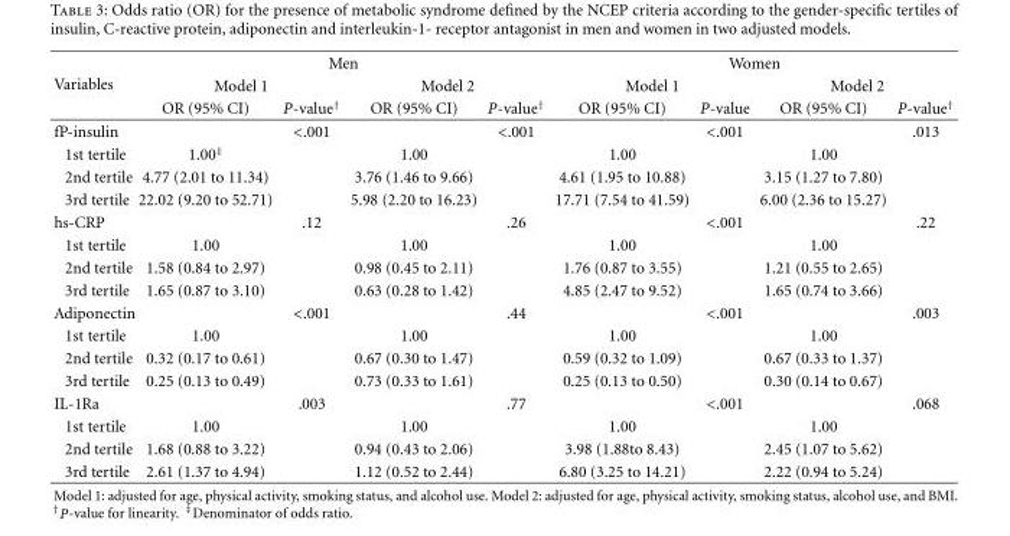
<table><thead><tr><td rowspan="3">Variables</td><td colspan="4">Men</td><td colspan="4">Women</td></tr><tr><td colspan="2">Model 1</td><td colspan="2">Model 2</td><td colspan="2">Model 1</td><td colspan="2">Model 2</td></tr><tr><td>OR (95% CI)</td><td>P-value<sup>†</sup></td><td>OR (95% CI)</td><td>P-value<sup>†</sup></td><td>OR (95% CI)</td><td>P-value</td><td>OR (95% CI)</td><td>P-value<sup>†</sup></td></tr></thead><tbody><tr><td>fP-insulin</td><td></td><td>&lt;.001</td><td></td><td>&lt;.001</td><td></td><td>&lt;.001</td><td></td><td>.013</td></tr><tr><td>1st tertile</td><td>1.00<sup>‡</sup></td><td></td><td>1.00</td><td></td><td>1.00</td><td></td><td>1.00</td><td></td></tr><tr><td>2nd tertile</td><td>4.77 (2.01 to 11.34)</td><td></td><td>3.76 (1.46 to 9.66)</td><td></td><td>4.61 (1.95 to 10.88)</td><td></td><td>3.15 (1.27 to 7.80)</td><td></td></tr><tr><td>3rd tertile</td><td>22.02 (9.20 to 52.71)</td><td></td><td>5.98 (2.20 to 16.23)</td><td></td><td>17.71 (7.54 to 41.59)</td><td></td><td>6.00 (2.36 to 15.27)</td><td></td></tr><tr><td>hs-CRP</td><td></td><td>.12</td><td></td><td>.26</td><td></td><td>&lt;.001</td><td></td><td>.22</td></tr><tr><td>1st tertile</td><td>1.00</td><td></td><td>1.00</td><td></td><td>1.00</td><td></td><td>1.00</td><td></td></tr><tr><td>2nd tertile</td><td>1.58 (0.84 to 2.97)</td><td></td><td>0.98 (0.45 to 2.11)</td><td></td><td>1.76 (0.87 to 3.55)</td><td></td><td>1.21 (0.55 to 2.65)</td><td></td></tr><tr><td>3rd tertile</td><td>1.65 (0.87 to 3.10)</td><td></td><td>0.63 (0.28 to 1.42)</td><td></td><td>4.85 (2.47 to 9.52)</td><td></td><td>1.65 (0.74 to 3.66)</td><td></td></tr><tr><td>Adiponectin</td><td></td><td>&lt;.001</td><td></td><td>.44</td><td></td><td>&lt;.001</td><td></td><td>.003</td></tr><tr><td>1st tertile</td><td>1.00</td><td></td><td>1.00</td><td></td><td>1.00</td><td></td><td>1.00</td><td></td></tr><tr><td>2nd tertile</td><td>0.32 (0.17 to 0.61)</td><td></td><td>0.67 (0.30 to 1.47)</td><td></td><td>0.59 (0.32 to 1.09)</td><td></td><td>0.67 (0.33 to 1.37)</td><td></td></tr><tr><td>3rd tertile</td><td>0.25 (0.13 to 0.49)</td><td></td><td>0.73 (0.33 to 1.61)</td><td></td><td>0.25 (0.13 to 0.50)</td><td></td><td>0.30 (0.14 to 0.67)</td><td></td></tr><tr><td>IL-1Ra</td><td></td><td>.003</td><td></td><td>.77</td><td></td><td>&lt;.001</td><td></td><td>.068</td></tr><tr><td>1st tertile</td><td>1.00</td><td></td><td>1.00</td><td></td><td>1.00</td><td></td><td>1.00</td><td></td></tr><tr><td>2nd tertile</td><td>1.68 (0.88 to 3.22)</td><td></td><td>0.94 (0.43 to 2.06)</td><td></td><td>3.98 (1.88to 8.43)</td><td></td><td>2.45 (1.07 to 5.62)</td><td></td></tr><tr><td>3rd tertile</td><td>2.61 (1.37 to 4.94)</td><td></td><td>1.12 (0.52 to 2.44)</td><td></td><td>6.80 (3.25 to 14.21)</td><td></td><td>2.22 (0.94 to 5.24)</td><td></td></tr></tbody></table>